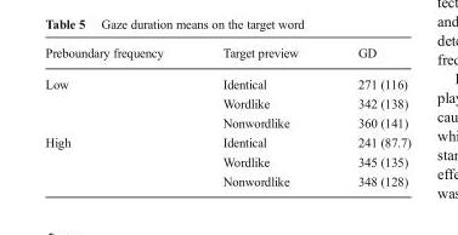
<table><thead><tr><td>Preboundary frequency</td><td>Target preview</td><td>GD</td></tr></thead><tbody><tr><td rowspan="3">Low</td><td>Identical</td><td>271 (116)</td></tr><tr><td>Wordlike</td><td>342 (138)</td></tr><tr><td>Nonwordlike</td><td>360 (141)</td></tr><tr><td rowspan="3">High</td><td>Identical</td><td>241 (87.7)</td></tr><tr><td>Wordlike</td><td>345 (135)</td></tr><tr><td>Nonwordlike</td><td>348 (128)</td></tr></tbody></table>